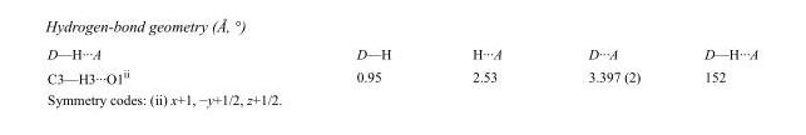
<table><tbody><tr><td>D—H···A</td><td>D—H</td><td>H···A</td><td>D···A</td><td>D—H···A</td></tr><tr><td>C3—H3···O1<sup>ii</sup></td><td>0.95</td><td>2.53</td><td>3.397 (2)</td><td>152</td></tr></tbody></table>